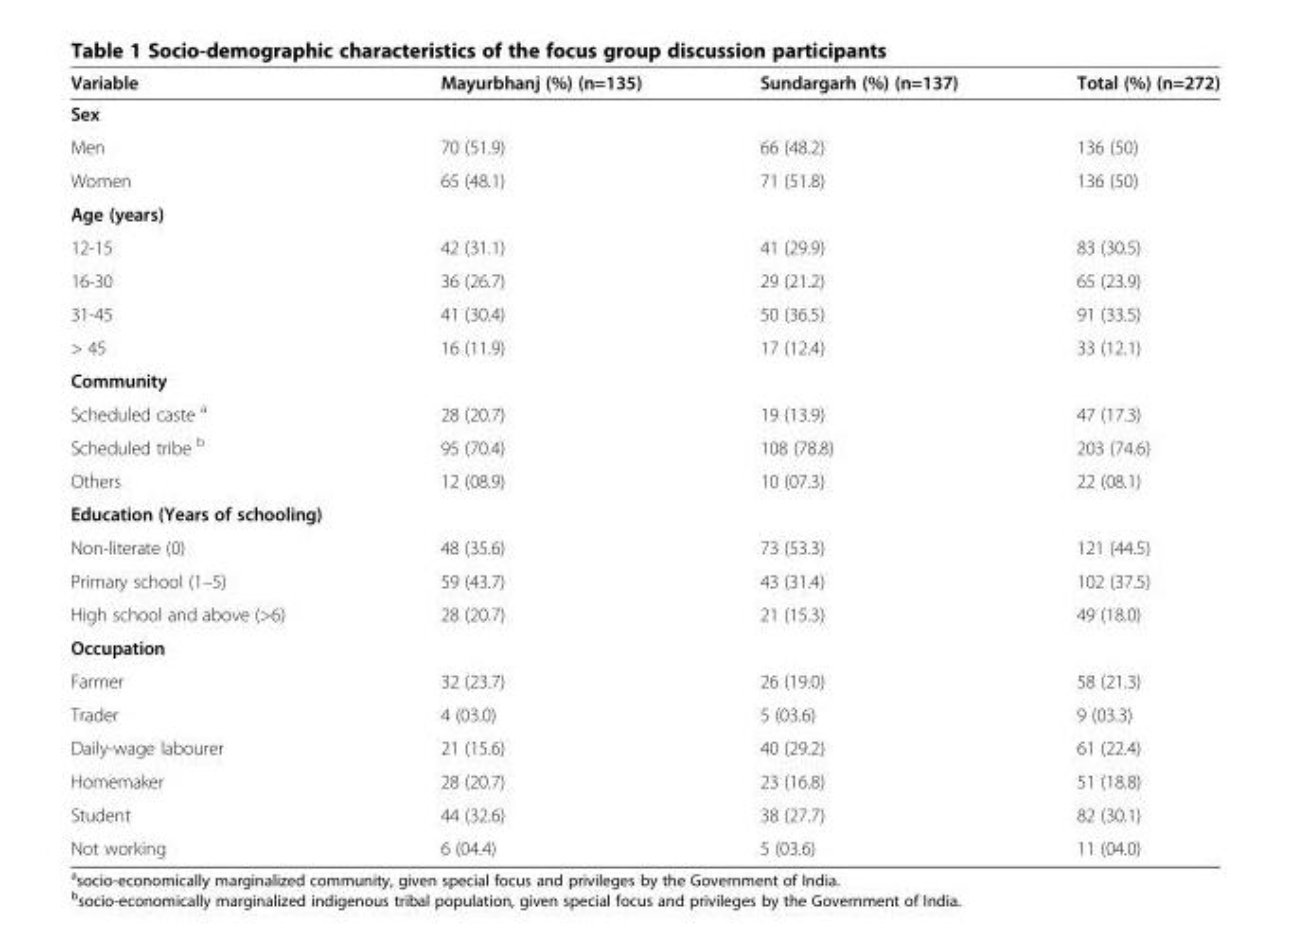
<table><thead><tr><td>Variable</td><td>Mayurbhanj (%) (n=135)</td><td>Sundargarh (%) (n=137)</td><td>Total (%) (n=272)</td></tr></thead><tbody><tr><td colspan="4">Sex</td></tr><tr><td>Men</td><td>70 (51.9)</td><td>66 (48.2)</td><td>136 (50)</td></tr><tr><td>Women</td><td>65 (48.1)</td><td>71 (51.8)</td><td>136 (50)</td></tr><tr><td colspan="4">Age (years)</td></tr><tr><td>12-15</td><td>42 (31.1)</td><td>41 (29.9)</td><td>83 (30.5)</td></tr><tr><td>16-30</td><td>36 (26.7)</td><td>29 (21.2)</td><td>65 (23.9)</td></tr><tr><td>31-45</td><td>41 (30.4)</td><td>50 (36.5)</td><td>91 (33.5)</td></tr><tr><td>&gt; 45</td><td>16 (11.9)</td><td>17 (12.4)</td><td>33 (12.1)</td></tr><tr><td colspan="4">Community</td></tr><tr><td>Scheduled caste <sup>a</sup></td><td>28 (20.7)</td><td>19 (13.9)</td><td>47 (17.3)</td></tr><tr><td>Scheduled tribe <sup>b</sup></td><td>95 (70.4)</td><td>108 (78.8)</td><td>203 (74.6)</td></tr><tr><td>Others</td><td>12 (08.9)</td><td>10 (07.3)</td><td>22 (08.1)</td></tr><tr><td colspan="4">Education (Years of schooling)</td></tr><tr><td>Non-literate (0)</td><td>48 (35.6)</td><td>73 (53.3)</td><td>121 (44.5)</td></tr><tr><td>Primary school (1–5)</td><td>59 (43.7)</td><td>43 (31.4)</td><td>102 (37.5)</td></tr><tr><td>High school and above (&gt;6)</td><td>28 (20.7)</td><td>21 (15.3)</td><td>49 (18.0)</td></tr><tr><td colspan="4">Occupation</td></tr><tr><td>Farmer</td><td>32 (23.7)</td><td>26 (19.0)</td><td>58 (21.3)</td></tr><tr><td>Trader</td><td>4 (03.0)</td><td>5 (03.6)</td><td>9 (03.3)</td></tr><tr><td>Daily-wage labourer</td><td>21 (15.6)</td><td>40 (29.2)</td><td>61 (22.4)</td></tr><tr><td>Homemaker</td><td>28 (20.7)</td><td>23 (16.8)</td><td>51 (18.8)</td></tr><tr><td>Student</td><td>44 (32.6)</td><td>38 (27.7)</td><td>82 (30.1)</td></tr><tr><td>Not working</td><td>6 (04.4)</td><td>5 (03.6)</td><td>11 (04.0)</td></tr></tbody></table>